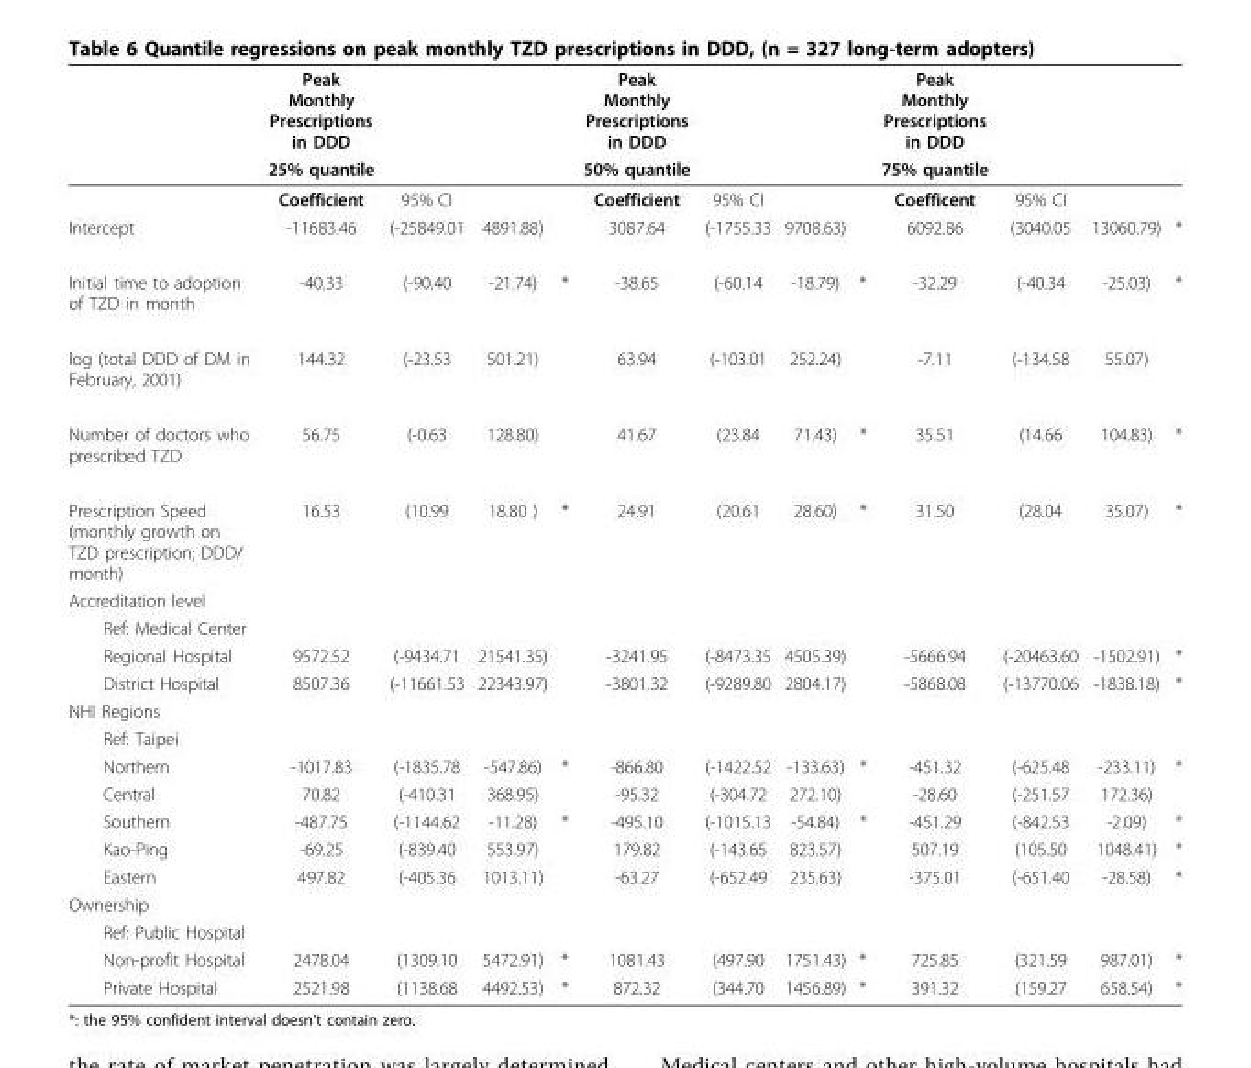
<table><thead><tr><td rowspan="2"></td><td rowspan="2">Peak Monthly Prescriptions in DDD 25% quantile</td><td rowspan="2"></td><td rowspan="2"></td><td rowspan="2"></td><td rowspan="2">Peak Monthly Prescriptions in DDD 50% quantile</td><td rowspan="2"></td><td rowspan="2"></td><td rowspan="2"></td><td rowspan="2">Peak Monthly Prescriptions in DDD 75% quantile</td><td rowspan="2"></td><td rowspan="2"></td><td rowspan="2"></td></tr><tr></tr></thead><tbody><tr><td></td><td>Coefficient</td><td>95% CI</td><td></td><td></td><td>Coefficient</td><td>95% CI</td><td></td><td></td><td>Coefficent</td><td>95% CI</td><td></td><td></td></tr><tr><td>Intercept</td><td>-11683.46</td><td>(-25849.01</td><td>4891.88)</td><td></td><td>3087.64</td><td>(-1755.33</td><td>9708.63)</td><td></td><td>6092.86</td><td>(3040.05</td><td>13060.79)</td><td>*</td></tr><tr><td>Initial time to adoption of TZD in month</td><td>-40.33</td><td>(-90.40</td><td>-21.74)</td><td>*</td><td>-38.65</td><td>(-60.14</td><td>-18.79)</td><td>*</td><td>-32.29</td><td>(-40.34</td><td>-25.03)</td><td>*</td></tr><tr><td>log (total DDD of DM in February, 2001)</td><td>144.32</td><td>(-23.53</td><td>501.21)</td><td></td><td>63.94</td><td>(-103.01</td><td>252.24)</td><td></td><td>-7.11</td><td>(-134.58</td><td>55.07)</td><td></td></tr><tr><td>Number of doctors who prescribed TZD</td><td>56.75</td><td>(-0.63</td><td>128.80)</td><td></td><td>41.67</td><td>(23.84</td><td>71.43)</td><td>*</td><td>35.51</td><td>(14.66</td><td>104.83)</td><td>*</td></tr><tr><td>Prescription Speed (monthly growth on TZD prescription; DDD/ month)</td><td>16.53</td><td>(10.99</td><td>18.80 )</td><td>*</td><td>24.91</td><td>(20.61</td><td>28.60)</td><td>*</td><td>31.50</td><td>(28.04</td><td>35.07)</td><td>*</td></tr><tr><td colspan="13">Accreditation level</td></tr><tr><td colspan="13">Ref: Medical Center</td></tr><tr><td>Regional Hospital</td><td>9572.52</td><td>(-9434.71</td><td>21541.35)</td><td></td><td>-3241.95</td><td>(-8473.35</td><td>4505.39)</td><td></td><td>-5666.94</td><td>(-20463.60</td><td>-1502.91)</td><td>*</td></tr><tr><td>District Hospital</td><td>8507.36</td><td>(-11661.53</td><td>22343.97)</td><td></td><td>-3801.32</td><td>(-9289.80</td><td>2804.17)</td><td></td><td>-5868.08</td><td>(-13770.06</td><td>-1838.18)</td><td>*</td></tr><tr><td colspan="13">NHI Regions</td></tr><tr><td colspan="13">Ref: Taipei</td></tr><tr><td>Northern</td><td>-1017.83</td><td>(-1835.78</td><td>-547.86)</td><td>*</td><td>-866.80</td><td>(-1422.52</td><td>-133.63)</td><td>*</td><td>-451.32</td><td>(-625.48</td><td>-233.11)</td><td>*</td></tr><tr><td>Central</td><td>70.82</td><td>(-410.31</td><td>368.95)</td><td></td><td>-95.32</td><td>(-304.72</td><td>272.10)</td><td></td><td>-28.60</td><td>(-251.57</td><td>172.36)</td><td></td></tr><tr><td>Southern</td><td>-487.75</td><td>(-1144.62</td><td>-11.28)</td><td>*</td><td>-495.10</td><td>(-1015.13</td><td>-54.84)</td><td>*</td><td>-451.29</td><td>(-842.53</td><td>-2.09)</td><td>*</td></tr><tr><td>Kao-Ping</td><td>-69.25</td><td>(-839.40</td><td>553.97)</td><td></td><td>179.82</td><td>(-143.65</td><td>823.57)</td><td></td><td>507.19</td><td>(105.50</td><td>1048.41)</td><td>*</td></tr><tr><td>Eastern</td><td>497.82</td><td>(-405.36</td><td>1013.11)</td><td></td><td>-63.27</td><td>(-652.49</td><td>235.63)</td><td></td><td>-375.01</td><td>(-651.40</td><td>-28.58)</td><td>*</td></tr><tr><td colspan="13">Ownership</td></tr><tr><td colspan="13">Ref: Public Hospital</td></tr><tr><td>Non-profit Hospital</td><td>2478.04</td><td>(1309.10</td><td>5472.91)</td><td>*</td><td>1081.43</td><td>(497.90</td><td>1751.43)</td><td>*</td><td>725.85</td><td>(321.59</td><td>987.01)</td><td>*</td></tr><tr><td>Private Hospital</td><td>2521.98</td><td>(1138.68</td><td>4492.53)</td><td>*</td><td>872.32</td><td>(344.70</td><td>1456.89)</td><td>*</td><td>391.32</td><td>(159.27</td><td>658.54)</td><td>*</td></tr></tbody></table>